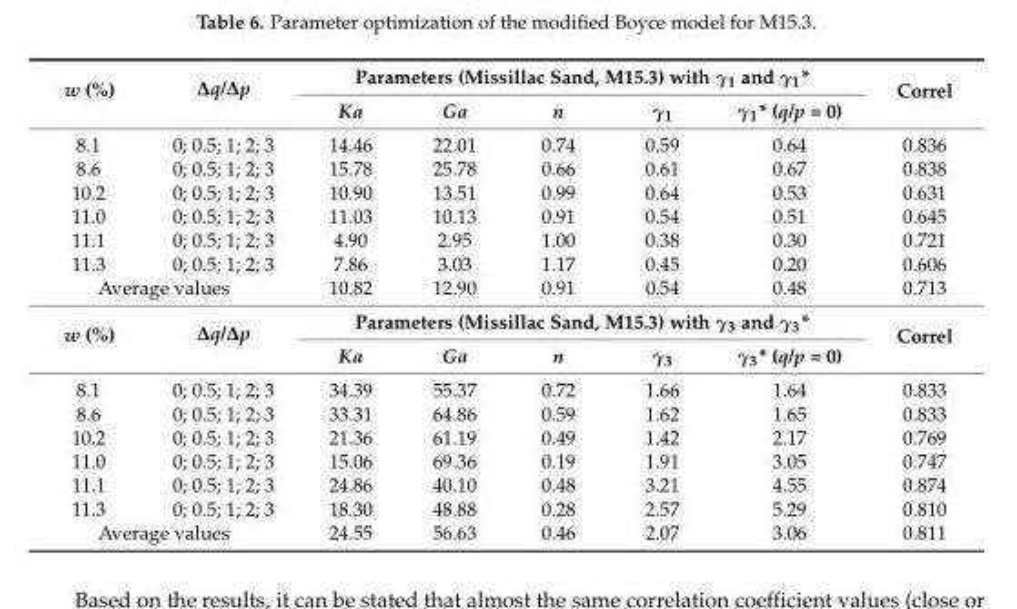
<table><tbody><tr><td rowspan="2">w (%)</td><td rowspan="2">∆q/∆p</td><td colspan="5">Parameters (Missillac Sand, M15.3) with γ<sub>1</sub> and γ<sub>1</sub>*</td><td rowspan="2">Correl</td></tr><tr><td>Ka</td><td>Ga</td><td>n</td><td>γ<sub>1</sub></td><td>γ<sub>1</sub>* (q/p = 0)</td></tr><tr><td>8.1</td><td>0; 0.5; 1; 2; 3</td><td>14.46</td><td>22.01</td><td>0.74</td><td>0.59</td><td>0.64</td><td>0.836</td></tr><tr><td>8.6</td><td>0; 0.5; 1; 2; 3</td><td>15.78</td><td>25.78</td><td>0.66</td><td>0.61</td><td>0.67</td><td>0.838</td></tr><tr><td>10.2</td><td>0; 0.5; 1; 2; 3</td><td>10.90</td><td>13.51</td><td>0.99</td><td>0.64</td><td>0.53</td><td>0.631</td></tr><tr><td>11.0</td><td>0; 0.5; 1; 2; 3</td><td>11.03</td><td>10.13</td><td>0.91</td><td>0.54</td><td>0.51</td><td>0.645</td></tr><tr><td>11.1</td><td>0; 0.5; 1; 2; 3</td><td>4.90</td><td>2.95</td><td>1.00</td><td>0.38</td><td>0.30</td><td>0.721</td></tr><tr><td>11.3</td><td>0; 0.5; 1; 2; 3</td><td>7.86</td><td>3.03</td><td>1.17</td><td>0.45</td><td>0.20</td><td>0.606</td></tr><tr><td colspan="2">Average values</td><td>10.82</td><td>12.90</td><td>0.91</td><td>0.54</td><td>0.48</td><td>0.713</td></tr><tr><td rowspan="2">w (%)</td><td rowspan="2">∆q/∆p</td><td colspan="5">Parameters (Missillac Sand, M15.3) with γ<sub>3</sub> and γ<sub>3</sub>*</td><td rowspan="2">Correl</td></tr><tr><td>Ka</td><td>Ga</td><td>n</td><td>γ<sub>3</sub></td><td>γ<sub>3</sub>* (q/p = 0)</td></tr><tr><td>8.1</td><td>0; 0.5; 1; 2; 3</td><td>34.39</td><td>55.37</td><td>0.72</td><td>1.66</td><td>1.64</td><td>0.833</td></tr><tr><td>8.6</td><td>0; 0.5; 1; 2; 3</td><td>33.31</td><td>64.86</td><td>0.59</td><td>1.62</td><td>1.65</td><td>0.833</td></tr><tr><td>10.2</td><td>0; 0.5; 1; 2; 3</td><td>21.36</td><td>61.19</td><td>0.49</td><td>1.42</td><td>2.17</td><td>0.769</td></tr><tr><td>11.0</td><td>0; 0.5; 1; 2; 3</td><td>15.06</td><td>69.36</td><td>0.19</td><td>1.91</td><td>3.05</td><td>0.747</td></tr><tr><td>11.1</td><td>0; 0.5; 1; 2; 3</td><td>24.86</td><td>40.10</td><td>0.48</td><td>3.21</td><td>4.55</td><td>0.874</td></tr><tr><td>11.3</td><td>0; 0.5; 1; 2; 3</td><td>18.30</td><td>48.88</td><td>0.28</td><td>2.57</td><td>5.29</td><td>0.810</td></tr><tr><td colspan="2">Average values</td><td>24.55</td><td>56.63</td><td>0.46</td><td>2.07</td><td>3.06</td><td>0.811</td></tr></tbody></table>